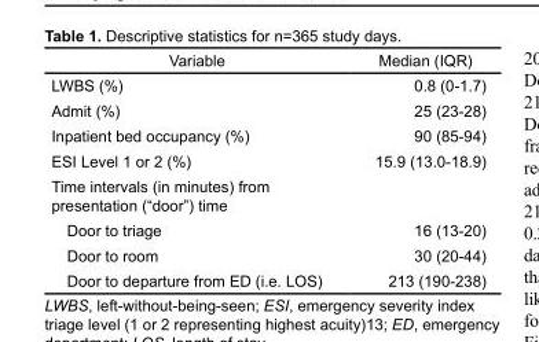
<table><thead><tr><td>Variable</td><td>Median (IQR)</td></tr></thead><tbody><tr><td>LWBS (%)</td><td>0.8 (0-1.7)</td></tr><tr><td>Admit (%)</td><td>25 (23-28)</td></tr><tr><td>Inpatient bed occupancy (%)</td><td>90 (85-94)</td></tr><tr><td>ESI Level 1 or 2 (%)</td><td>15.9 (13.0-18.9)</td></tr><tr><td colspan="2">Time intervals (in minutes) from presentation (“door”) time</td></tr><tr><td>Door to triage</td><td>16 (13-20)</td></tr><tr><td>Door to room</td><td>30 (20-44)</td></tr><tr><td>Door to departure from ED (i.e. LOS)</td><td>213 (190-238)</td></tr></tbody></table>